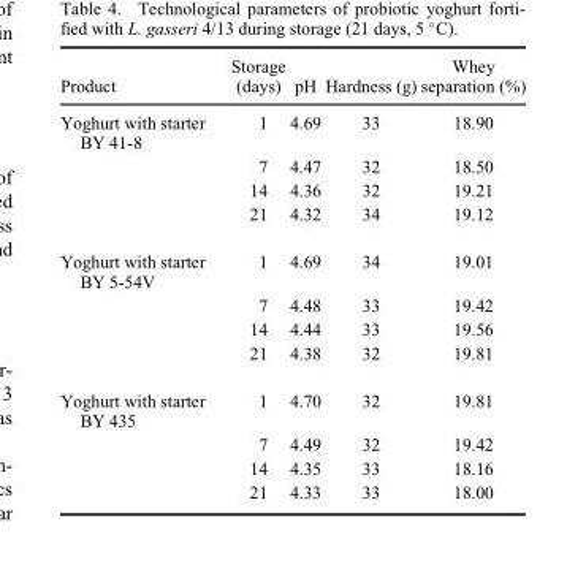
<table><thead><tr><td>Product</td><td>Storage (days)</td><td>pH</td><td>Hardness (g)</td><td>Whey separation (%)</td></tr></thead><tbody><tr><td rowspan="4">Yoghurt with starter BY 41-8</td><td>1</td><td>4.69</td><td>33</td><td>18.90</td></tr><tr><td>7</td><td>4.47</td><td>32</td><td>18.50</td></tr><tr><td>14</td><td>4.36</td><td>32</td><td>19.21</td></tr><tr><td>21</td><td>4.32</td><td>34</td><td>19.12</td></tr><tr><td rowspan="4">Yoghurt with starter BY 5-54V</td><td>1</td><td>4.69</td><td>34</td><td>19.01</td></tr><tr><td>7</td><td>4.48</td><td>33</td><td>19.42</td></tr><tr><td>14</td><td>4.44</td><td>33</td><td>19.56</td></tr><tr><td>21</td><td>4.38</td><td>32</td><td>19.81</td></tr><tr><td rowspan="4">Yoghurt with starter BY 435</td><td>1</td><td>4.70</td><td>32</td><td>19.81</td></tr><tr><td>7</td><td>4.49</td><td>32</td><td>19.42</td></tr><tr><td>14</td><td>4.35</td><td>33</td><td>18.16</td></tr><tr><td>21</td><td>4.33</td><td>33</td><td>18.00</td></tr></tbody></table>